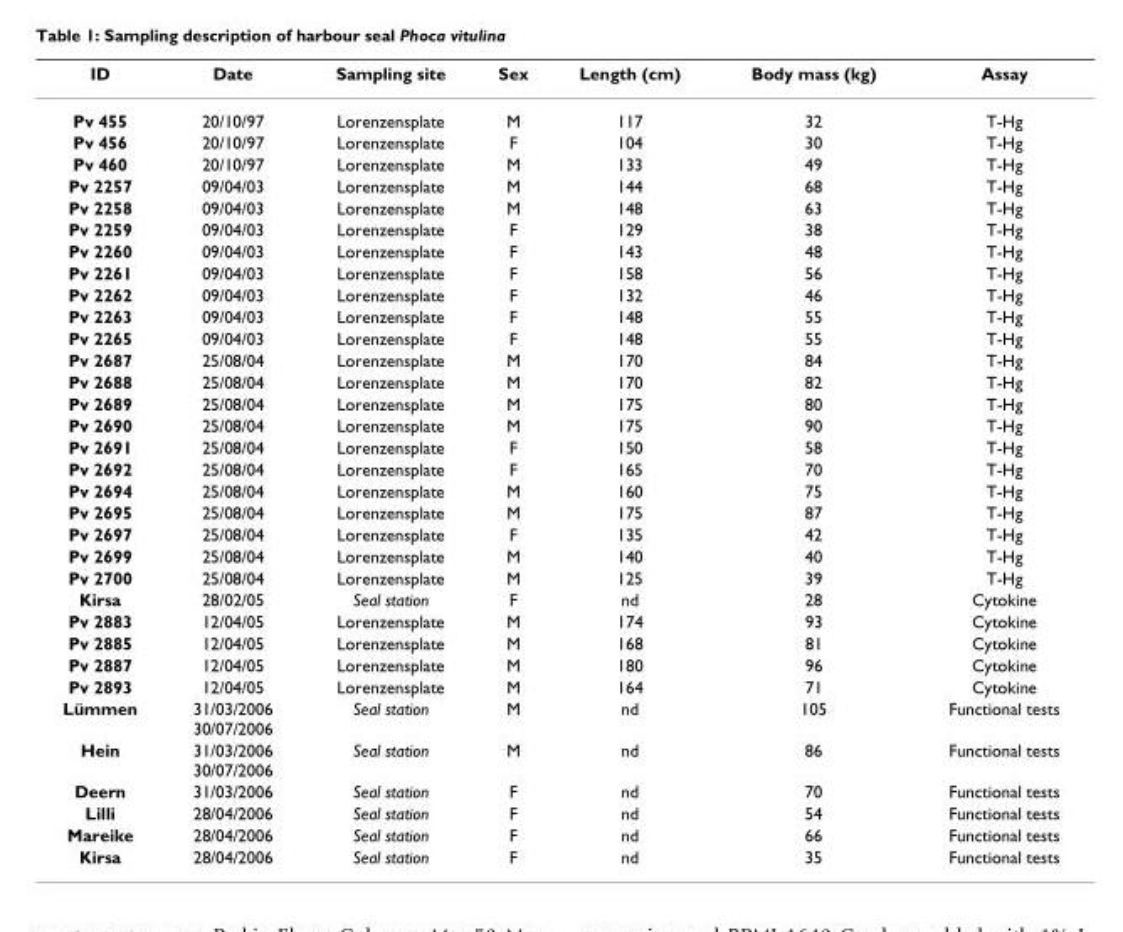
<table><thead><tr><td>ID</td><td>Date</td><td>Sampling site</td><td>Sex</td><td>Length (cm)</td><td>Body mass (kg)</td><td>Assay</td></tr></thead><tbody><tr><td>Pv 455</td><td>20/10/97</td><td>Lorenzensplate</td><td>M</td><td>117</td><td>32</td><td>T-Hg</td></tr><tr><td>Pv 456</td><td>20/10/97</td><td>Lorenzensplate</td><td>F</td><td>104</td><td>30</td><td>T-Hg</td></tr><tr><td>Pv 460</td><td>20/10/97</td><td>Lorenzensplate</td><td>M</td><td>133</td><td>49</td><td>T-Hg</td></tr><tr><td>Pv 2257</td><td>09/04/03</td><td>Lorenzensplate</td><td>M</td><td>144</td><td>68</td><td>T-Hg</td></tr><tr><td>Pv 2258</td><td>09/04/03</td><td>Lorenzensplate</td><td>M</td><td>148</td><td>63</td><td>T-Hg</td></tr><tr><td>Pv 2259</td><td>09/04/03</td><td>Lorenzensplate</td><td>F</td><td>129</td><td>38</td><td>T-Hg</td></tr><tr><td>Pv 2260</td><td>09/04/03</td><td>Lorenzensplate</td><td>F</td><td>143</td><td>48</td><td>T-Hg</td></tr><tr><td>Pv 2261</td><td>09/04/03</td><td>Lorenzensplate</td><td>F</td><td>158</td><td>56</td><td>T-Hg</td></tr><tr><td>Pv 2262</td><td>09/04/03</td><td>Lorenzensplate</td><td>F</td><td>132</td><td>46</td><td>T-Hg</td></tr><tr><td>Pv 2263</td><td>09/04/03</td><td>Lorenzensplate</td><td>F</td><td>148</td><td>55</td><td>T-Hg</td></tr><tr><td>Pv 2265</td><td>09/04/03</td><td>Lorenzensplate</td><td>F</td><td>148</td><td>55</td><td>T-Hg</td></tr><tr><td>Pv 2687</td><td>25/08/04</td><td>Lorenzensplate</td><td>M</td><td>170</td><td>84</td><td>T-Hg</td></tr><tr><td>Pv 2688</td><td>25/08/04</td><td>Lorenzensplate</td><td>M</td><td>170</td><td>82</td><td>T-Hg</td></tr><tr><td>Pv 2689</td><td>25/08/04</td><td>Lorenzensplate</td><td>M</td><td>175</td><td>80</td><td>T-Hg</td></tr><tr><td>Pv 2690</td><td>25/08/04</td><td>Lorenzensplate</td><td>M</td><td>175</td><td>90</td><td>T-Hg</td></tr><tr><td>Pv 2691</td><td>25/08/04</td><td>Lorenzensplate</td><td>F</td><td>150</td><td>58</td><td>T-Hg</td></tr><tr><td>Pv 2692</td><td>25/08/04</td><td>Lorenzensplate</td><td>F</td><td>165</td><td>70</td><td>T-Hg</td></tr><tr><td>Pv 2694</td><td>25/08/04</td><td>Lorenzensplate</td><td>M</td><td>160</td><td>75</td><td>T-Hg</td></tr><tr><td>Pv 2695</td><td>25/08/04</td><td>Lorenzensplate</td><td>M</td><td>175</td><td>87</td><td>T-Hg</td></tr><tr><td>Pv 2697</td><td>25/08/04</td><td>Lorenzensplate</td><td>F</td><td>135</td><td>42</td><td>T-Hg</td></tr><tr><td>Pv 2699</td><td>25/08/04</td><td>Lorenzensplate</td><td>M</td><td>140</td><td>40</td><td>T-Hg</td></tr><tr><td>Pv 2700</td><td>25/08/04</td><td>Lorenzensplate</td><td>M</td><td>125</td><td>39</td><td>T-Hg</td></tr><tr><td>Kirsa</td><td>28/02/05</td><td>Seal station</td><td>F</td><td>nd</td><td>28</td><td>Cytokine</td></tr><tr><td>Pv 2883</td><td>12/04/05</td><td>Lorenzensplate</td><td>M</td><td>174</td><td>93</td><td>Cytokine</td></tr><tr><td>Pv 2885</td><td>12/04/05</td><td>Lorenzensplate</td><td>M</td><td>168</td><td>81</td><td>Cytokine</td></tr><tr><td>Pv 2887</td><td>12/04/05</td><td>Lorenzensplate</td><td>M</td><td>180</td><td>96</td><td>Cytokine</td></tr><tr><td>Pv 2893</td><td>12/04/05</td><td>Lorenzensplate</td><td>M</td><td>164</td><td>71</td><td>Cytokine</td></tr><tr><td>Lümmen</td><td>31/03/2006 30/07/2006</td><td>Seal station</td><td>M</td><td>nd</td><td>105</td><td>Functional tests</td></tr><tr><td>Hein</td><td>31/03/2006 30/07/2006</td><td>Seal station</td><td>M</td><td>nd</td><td>86</td><td>Functional tests</td></tr><tr><td>Deern</td><td>31/03/2006</td><td>Seal station</td><td>F</td><td>nd</td><td>70</td><td>Functional tests</td></tr><tr><td>Lilli</td><td>28/04/2006</td><td>Seal station</td><td>F</td><td>nd</td><td>54</td><td>Functional tests</td></tr><tr><td>Mareike</td><td>28/04/2006</td><td>Seal station</td><td>F</td><td>nd</td><td>66</td><td>Functional tests</td></tr><tr><td>Kirsa</td><td>28/04/2006</td><td>Seal station</td><td>F</td><td>nd</td><td>35</td><td>Functional tests</td></tr></tbody></table>